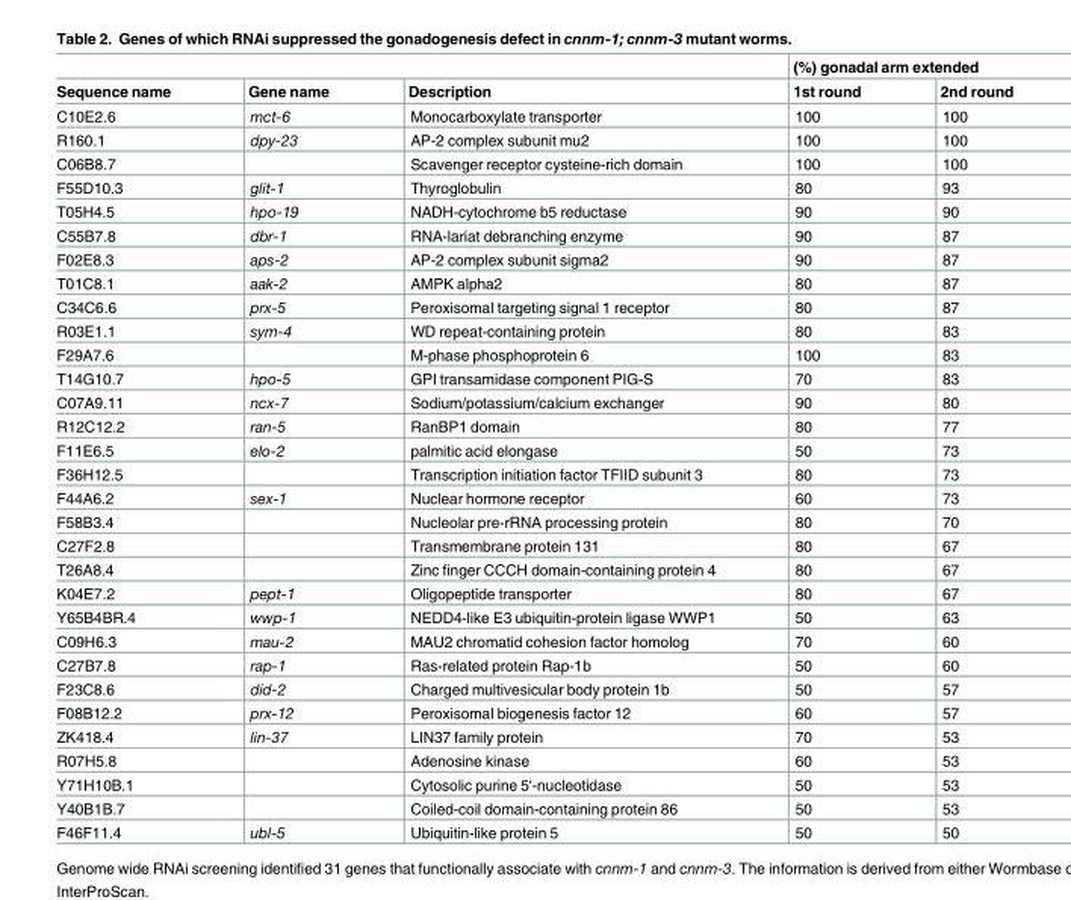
<table><thead><tr><td rowspan="2">Sequence name</td><td rowspan="2">Gene name</td><td rowspan="2">Description</td><td colspan="2">(%) gonadal arm extended</td></tr><tr><td>1st round</td><td>2nd round</td></tr></thead><tbody><tr><td>C10E2.6</td><td>mct-6</td><td>Monocarboxylate transporter</td><td>100</td><td>100</td></tr><tr><td>R160.1</td><td>dpy-23</td><td>AP-2 complex subunit mu2</td><td>100</td><td>100</td></tr><tr><td>C06B8.7</td><td></td><td>Scavenger receptor cysteine-rich domain</td><td>100</td><td>100</td></tr><tr><td>F55D10.3</td><td>glit-1</td><td>Thyroglobulin</td><td>80</td><td>93</td></tr><tr><td>T05H4.5</td><td>hpo-19</td><td>NADH-cytochrome b5 reductase</td><td>90</td><td>90</td></tr><tr><td>C55B7.8</td><td>dbr-1</td><td>RNA-lariat debranching enzyme</td><td>90</td><td>87</td></tr><tr><td>F02E8.3</td><td>aps-2</td><td>AP-2 complex subunit sigma2</td><td>90</td><td>87</td></tr><tr><td>T01C8.1</td><td>aak-2</td><td>AMPK alpha2</td><td>80</td><td>87</td></tr><tr><td>C34C6.6</td><td>prx-5</td><td>Peroxisomal targeting signal 1 receptor</td><td>80</td><td>87</td></tr><tr><td>R03E1.1</td><td>sym-4</td><td>WD repeat-containing protein</td><td>80</td><td>83</td></tr><tr><td>F29A7.6</td><td></td><td>M-phase phosphoprotein 6</td><td>100</td><td>83</td></tr><tr><td>T14G10.7</td><td>hpo-5</td><td>GPI transamidase component PIG-S</td><td>70</td><td>83</td></tr><tr><td>C07A9.11</td><td>ncx-7</td><td>Sodium/potassium/calcium exchanger</td><td>90</td><td>80</td></tr><tr><td>R12C12.2</td><td>ran-5</td><td>RanBP1 domain</td><td>80</td><td>77</td></tr><tr><td>F11E6.5</td><td>elo-2</td><td>palmitic acid elongase</td><td>50</td><td>73</td></tr><tr><td>F36H12.5</td><td></td><td>Transcription initiation factor TFIID subunit 3</td><td>80</td><td>73</td></tr><tr><td>F44A6.2</td><td>sex-1</td><td>Nuclear hormone receptor</td><td>60</td><td>73</td></tr><tr><td>F58B3.4</td><td></td><td>Nucleolar pre-rRNA processing protein</td><td>80</td><td>70</td></tr><tr><td>C27F2.8</td><td></td><td>Transmembrane protein 131</td><td>80</td><td>67</td></tr><tr><td>T26A8.4</td><td></td><td>Zinc finger CCCH domain-containing protein 4</td><td>80</td><td>67</td></tr><tr><td>K04E7.2</td><td>pept-1</td><td>Oligopeptide transporter</td><td>80</td><td>67</td></tr><tr><td>Y65B4BR.4</td><td>wwp-1</td><td>NEDD4-like E3 ubiquitin-protein ligase WWP1</td><td>50</td><td>63</td></tr><tr><td>C09H6.3</td><td>mau-2</td><td>MAU2 chromatid cohesion factor homolog</td><td>70</td><td>60</td></tr><tr><td>C27B7.8</td><td>rap-1</td><td>Ras-related protein Rap-1b</td><td>50</td><td>60</td></tr><tr><td>F23C8.6</td><td>did-2</td><td>Charged multivesicular body protein 1b</td><td>50</td><td>57</td></tr><tr><td>F08B12.2</td><td>prx-12</td><td>Peroxisomal biogenesis factor 12</td><td>60</td><td>57</td></tr><tr><td>ZK418.4</td><td>lin-37</td><td>LIN37 family protein</td><td>70</td><td>53</td></tr><tr><td>R07H5.8</td><td></td><td>Adenosine kinase</td><td>60</td><td>53</td></tr><tr><td>Y71H10B.1</td><td></td><td>Cytosolic purine 5&#x27;-nucleotidase</td><td>50</td><td>53</td></tr><tr><td>Y40B1B.7</td><td></td><td>Coiled-coil domain-containing protein 86</td><td>50</td><td>53</td></tr><tr><td>F46F11.4</td><td>ubl-5</td><td>Ubiquitin-like protein 5</td><td>50</td><td>50</td></tr></tbody></table>